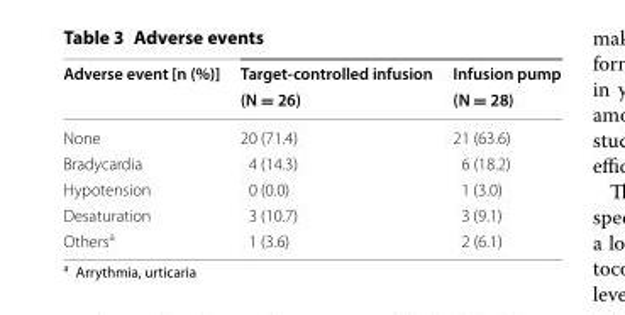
<table><thead><tr><td rowspan="2">Adverse event [n (%)]</td><td rowspan="2">Target-controlled infusion (N = 26)</td><td rowspan="2">Infusion pump (N = 28)</td></tr><tr></tr></thead><tbody><tr><td>None</td><td>20 (71.4)</td><td>21 (63.6)</td></tr><tr><td>Bradycardia</td><td>4 (14.3)</td><td>6 (18.2)</td></tr><tr><td>Hypotension</td><td>0 (0.0)</td><td>1 (3.0)</td></tr><tr><td>Desaturation</td><td>3 (10.7)</td><td>3 (9.1)</td></tr><tr><td>Others<sup>a</sup></td><td>1 (3.6)</td><td>2 (6.1)</td></tr></tbody></table>